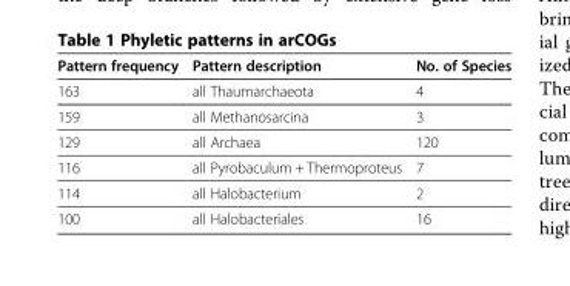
<table><thead><tr><td>Pattern frequency</td><td>Pattern description</td><td>No. of Species</td></tr></thead><tbody><tr><td>163</td><td>all Thaumarchaeota</td><td>4</td></tr><tr><td>159</td><td>all Methanosarcina</td><td>3</td></tr><tr><td>129</td><td>all Archaea</td><td>120</td></tr><tr><td>116</td><td>all Pyrobaculum + Thermoproteus</td><td>7</td></tr><tr><td>114</td><td>all Halobacterium</td><td>2</td></tr><tr><td>100</td><td>all Halobacteriales</td><td>16</td></tr></tbody></table>